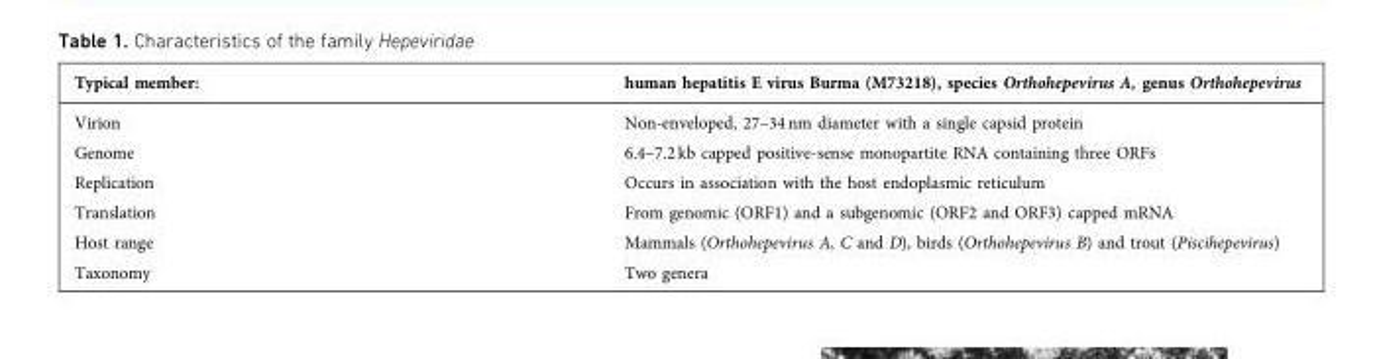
<table><thead><tr><td>Typical member:</td><td>human hepatitis E virus Burma (M73218), species Orthohepevirus A, genus Orthohepevirus</td></tr></thead><tbody><tr><td>Virion</td><td>Non-enveloped, 27–34 nm diameter with a single capsid protein</td></tr><tr><td>Genome</td><td>6.4–7.2 kb capped positive-sense monopartite RNA containing three ORFs</td></tr><tr><td>Replication</td><td>Occurs in association with the host endoplasmic reticulum</td></tr><tr><td>Translation</td><td>From genomic (ORF1) and a subgenomic (ORF2 and ORF3) capped mRNA</td></tr><tr><td>Host range</td><td>Mammals (Orthohepevirus A, C and D), birds (Orthohepevirus B) and trout (Piscihepevirus)</td></tr><tr><td>Taxonomy</td><td>Two genera</td></tr></tbody></table>